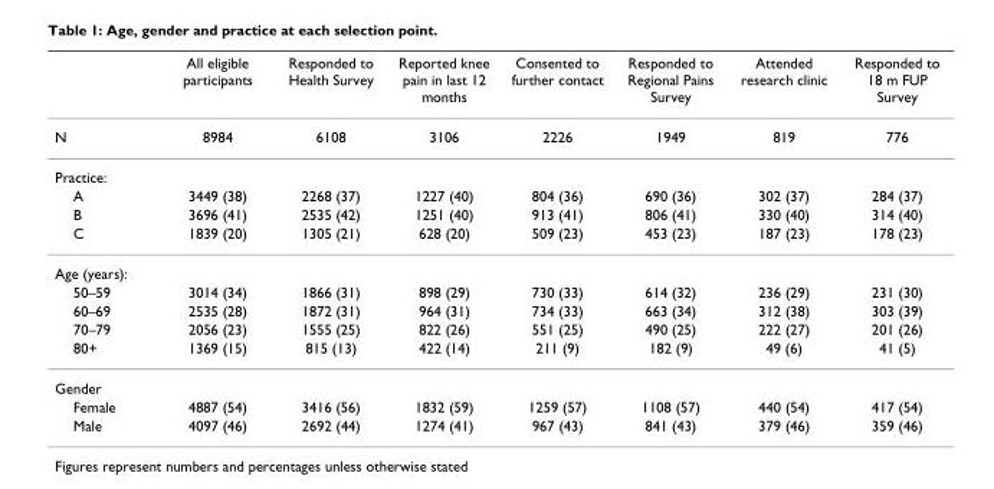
<table><thead><tr><td></td><td>All eligible participants</td><td>Responded to Health Survey</td><td>Reported knee pain in last 12 months</td><td>Consented to further contact</td><td>Responded to Regional Pains Survey</td><td>Attended research clinic</td><td>Responded to 18 m FUP Survey</td></tr></thead><tbody><tr><td>N</td><td>8984</td><td>6108</td><td>3106</td><td>2226</td><td>1949</td><td>819</td><td>776</td></tr><tr><td colspan="8">Practice:</td></tr><tr><td>A</td><td>3449 (38)</td><td>2268 (37)</td><td>1227 (40)</td><td>804 (36)</td><td>690 (36)</td><td>302 (37)</td><td>284 (37)</td></tr><tr><td>B</td><td>3696 (41)</td><td>2535 (42)</td><td>1251 (40)</td><td>913 (41)</td><td>806 (41)</td><td>330 (40)</td><td>314 (40)</td></tr><tr><td>C</td><td>1839 (20)</td><td>1305 (21)</td><td>628 (20)</td><td>509 (23)</td><td>453 (23)</td><td>187 (23)</td><td>178 (23)</td></tr><tr><td colspan="8">Age (years):</td></tr><tr><td>50–59</td><td>3014 (34)</td><td>1866 (31)</td><td>898 (29)</td><td>730 (33)</td><td>614 (32)</td><td>236 (29)</td><td>231 (30)</td></tr><tr><td>60–69</td><td>2535 (28)</td><td>1872 (31)</td><td>964 (31)</td><td>734 (33)</td><td>663 (34)</td><td>312 (38)</td><td>303 (39)</td></tr><tr><td>70–79</td><td>2056 (23)</td><td>1555 (25)</td><td>822 (26)</td><td>551 (25)</td><td>490 (25)</td><td>222 (27)</td><td>201 (26)</td></tr><tr><td>80+</td><td>1369 (15)</td><td>815 (13)</td><td>422 (14)</td><td>211 (9)</td><td>182 (9)</td><td>49 (6)</td><td>41 (5)</td></tr><tr><td colspan="8">Gender</td></tr><tr><td>Female</td><td>4887 (54)</td><td>3416 (56)</td><td>1832 (59)</td><td>1259 (57)</td><td>1108 (57)</td><td>440 (54)</td><td>417 (54)</td></tr><tr><td>Male</td><td>4097 (46)</td><td>2692 (44)</td><td>1274 (41)</td><td>967 (43)</td><td>841 (43)</td><td>379 (46)</td><td>359 (46)</td></tr></tbody></table>